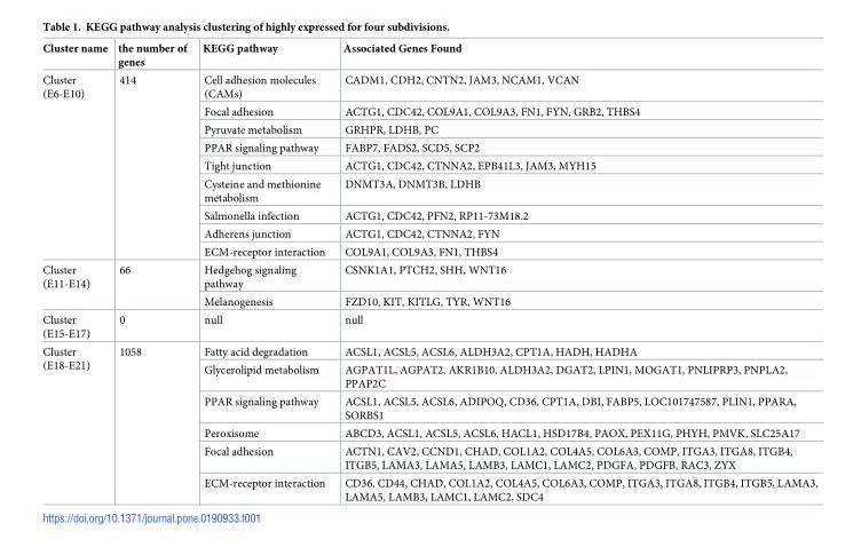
<table><thead><tr><td>Cluster name</td><td>the number of genes</td><td>KEGG pathway</td><td>Associated Genes Found</td></tr></thead><tbody><tr><td rowspan="9">Cluster (E6-E10)</td><td rowspan="9">414</td><td>Cell adhesion molecules (CAMs)</td><td>CADM1, CDH2, CNTN2, JAM3, NCAM1, VCAN</td></tr><tr><td>Focal adhesion</td><td>ACTG1, CDC42, COL9A1, COL9A3, FN1, FYN, GRB2, THBS4</td></tr><tr><td>Pyruvate metabolism</td><td>GRHPR, LDHB, PC</td></tr><tr><td>PPAR signaling pathway</td><td>FABP7, FADS2, SCD5, SCP2</td></tr><tr><td>Tight junction</td><td>ACTG1, CDC42, CTNNA2, EPB41L3, JAM3, MYH15</td></tr><tr><td>Cysteine and methionine metabolism</td><td>DNMT3A, DNMT3B, LDHB</td></tr><tr><td>Salmonella infection</td><td>ACTG1, CDC42, PFN2, RP11-73M18.2</td></tr><tr><td>Adherens junction</td><td>ACTG1, CDC42, CTNNA2, FYN</td></tr><tr><td>ECM-receptor interaction</td><td>COL9A1, COL9A3, FN1, THBS4</td></tr><tr><td rowspan="2">Cluster (E11-E14)</td><td rowspan="2">66</td><td>Hedgehog signaling pathway</td><td>CSNK1A1, PTCH2, SHH, WNT16</td></tr><tr><td>Melanogenesis</td><td>FZD10, KIT, KITLG, TYR, WNT16</td></tr><tr><td>Cluster (E15-E17)</td><td>0</td><td>null</td><td>null</td></tr><tr><td rowspan="6">Cluster (E18-E21)</td><td rowspan="6">1058</td><td>Fatty acid degradation</td><td>ACSL1, ACSL5, ACSL6, ALDH3A2, CPT1A, HADH, HADHA</td></tr><tr><td>Glycerolipid metabolism</td><td>AGPAT1L, AGPAT2, AKR1B10, ALDH3A2, DGAT2, LPIN1, MOGAT1, PNLIPRP3, PNPLA2, PPAP2C</td></tr><tr><td>PPAR signaling pathway</td><td>ACSL1, ACSL5, ACSL6, ADIPOQ, CD36, CPT1A, DBI, FABP5, LOC101747587, PLIN1, PPARA, SORBS1</td></tr><tr><td>Peroxisome</td><td>ABCD3, ACSL1, ACSL5, ACSL6, HACL1, HSD17B4, PAOX, PEX11G, PHYH, PMVK, SLC25A17</td></tr><tr><td>Focal adhesion</td><td>ACTN1, CAV2, CCND1, CHAD, COL1A2, COL4A5, COL6A3, COMP, ITGA3, ITGA8, ITGB4, ITGB5, LAMA3, LAMA5, LAMB3, LAMC1, LAMC2, PDGFA, PDGFB, RAC3, ZYX</td></tr><tr><td>ECM-receptor interaction</td><td>CD36, CD44, CHAD, COL1A2, COL4A5, COL6A3, COMP, ITGA3, ITGA8, ITGB4, ITGB5, LAMA3, LAMA5, LAMB3, LAMC1, LAMC2, SDC4</td></tr></tbody></table>